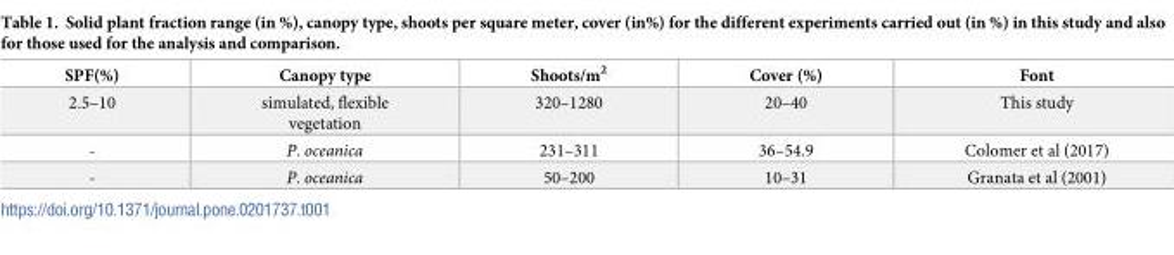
<table><thead><tr><td>SPF(%)</td><td>Canopy type</td><td>Shoots/m<sup>2</sup></td><td>Cover (%)</td><td>Font</td></tr></thead><tbody><tr><td>2.5–10</td><td>simulated, flexible vegetation</td><td>320–1280</td><td>20–40</td><td>This study</td></tr><tr><td>-</td><td>P. oceanica</td><td>231–311</td><td>36–54.9</td><td>Colomer et al (2017)</td></tr><tr><td>-</td><td>P. oceanica</td><td>50–200</td><td>10–31</td><td>Granata et al (2001)</td></tr></tbody></table>